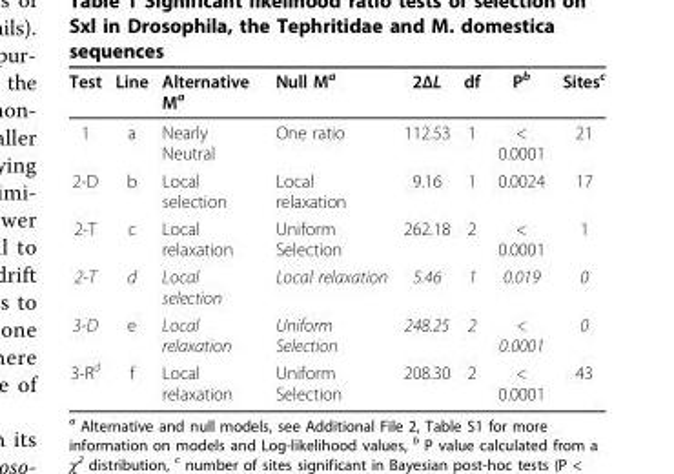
<table><thead><tr><td>Test</td><td>Line</td><td>Alternative M<sup>a</sup></td><td>Null M<sup>a</sup></td><td>2ΔL</td><td>df</td><td>P<sup>b</sup></td><td>Sites<sup>c</sup></td></tr></thead><tbody><tr><td>1</td><td>a</td><td>Nearly Neutral</td><td>One ratio</td><td>112.53</td><td>1</td><td>&lt; 0.0001</td><td>21</td></tr><tr><td>2-D</td><td>b</td><td>Local selection</td><td>Local relaxation</td><td>9.16</td><td>1</td><td>0.0024</td><td>17</td></tr><tr><td>2-T</td><td>c</td><td>Local relaxation</td><td>Uniform Selection</td><td>262.18</td><td>2</td><td>&lt; 0.0001</td><td>1</td></tr><tr><td>2-T</td><td>d</td><td>Local selection</td><td>Local relaxation</td><td>5.46</td><td>1</td><td>0.019</td><td>0</td></tr><tr><td>3-D</td><td>e</td><td>Local relaxation</td><td>Uniform Selection</td><td>248.25</td><td>2</td><td>&lt; 0.0001</td><td>0</td></tr><tr><td>3-R<sup>d</sup></td><td>f</td><td>Local relaxation</td><td>Uniform Selection</td><td>208.30</td><td>2</td><td>&lt; 0.0001</td><td>43</td></tr></tbody></table>